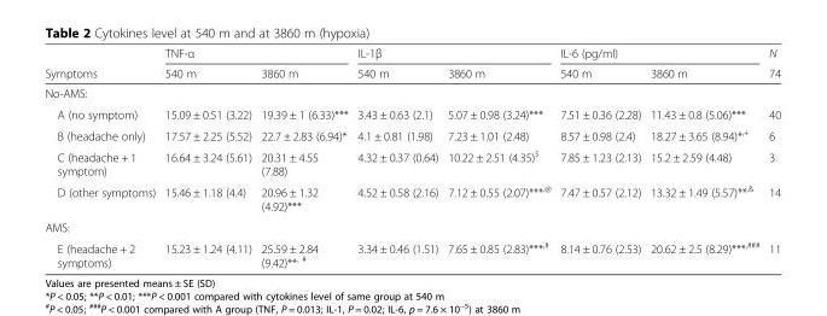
<table><thead><tr><td rowspan="2">Symptoms</td><td colspan="2">TNF-α</td><td colspan="2">IL-1β</td><td colspan="2">IL-6 (pg/ml)</td><td rowspan="2">N 74</td></tr><tr><td>540 m</td><td>3860 m</td><td>540 m</td><td>3860 m</td><td>540 m</td><td>3860 m</td></tr></thead><tbody><tr><td colspan="8">No-AMS:</td></tr><tr><td>A (no symptom)</td><td>15.09 ± 0.51 (3.22)</td><td>19.39 ± 1 (6.33)***</td><td>3.43 ± 0.63 (2.1)</td><td>5.07 ± 0.98 (3.24)***</td><td>7.51 ± 0.36 (2.28)</td><td>11.43 ± 0.8 (5.06)***</td><td>40</td></tr><tr><td>B (headache only)</td><td>17.57 ± 2.25 (5.52)</td><td>22.7 ± 2.83 (6.94)*</td><td>4.1 ± 0.81 (1.98)</td><td>7.23 ± 1.01 (2.48)</td><td>8.57 ± 0.98 (2.4)</td><td>18.27 ± 3.65 (8.94)*<sup>,+</sup></td><td>6</td></tr><tr><td>C (headache + 1 symptom)</td><td>16.64 ± 3.24 (5.61)</td><td>20.31 ± 4.55 (7.88)</td><td>4.32 ± 0.37 (0.64)</td><td>10.22 ± 2.51 (4.35)<sup>$</sup></td><td>7.85 ± 1.23 (2.13)</td><td>15.2 ± 2.59 (4.48)</td><td>3</td></tr><tr><td>D (other symptoms)</td><td>15.46 ± 1.18 (4.4)</td><td>20.96 ± 1.32 (4.92)***</td><td>4.52 ± 0.58 (2.16)</td><td>7.12 ± 0.55 (2.07)***<sup>,@</sup></td><td>7.47 ± 0.57 (2.12)</td><td>13.32 ± 1.49 (5.57)**<sup>,&amp;</sup></td><td>14</td></tr><tr><td colspan="8">AMS:</td></tr><tr><td>E (headache + 2 symptoms)</td><td>15.23 ± 1.24 (4.11)</td><td>25.59 ± 2.84 (9.42)**<sup>, #</sup></td><td>3.34 ± 0.46 (1.51)</td><td>7.65 ± 0.85 (2.83)***<sup>,#</sup></td><td>8.14 ± 0.76 (2.53)</td><td>20.62 ± 2.5 (8.29)***<sup>,###</sup></td><td>11</td></tr></tbody></table>